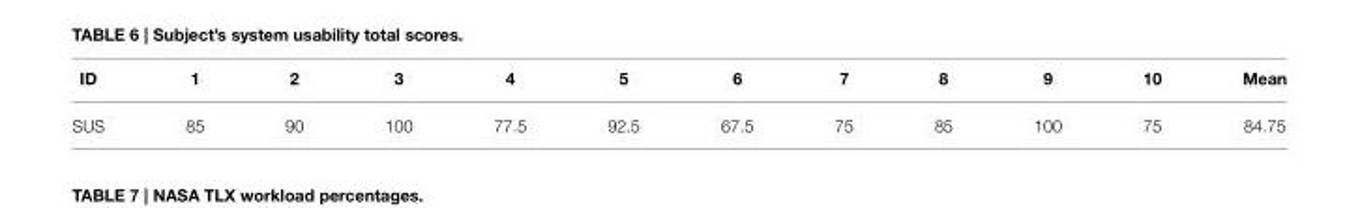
<table><thead><tr><td>ID</td><td>1</td><td>2</td><td>3</td><td>4</td><td>5</td><td>6</td><td>7</td><td>8</td><td>9</td><td>10</td><td>Mean</td></tr></thead><tbody><tr><td>SUS</td><td>85</td><td>90</td><td>100</td><td>77.5</td><td>92.5</td><td>67.5</td><td>75</td><td>85</td><td>100</td><td>75</td><td>84.75</td></tr></tbody></table>